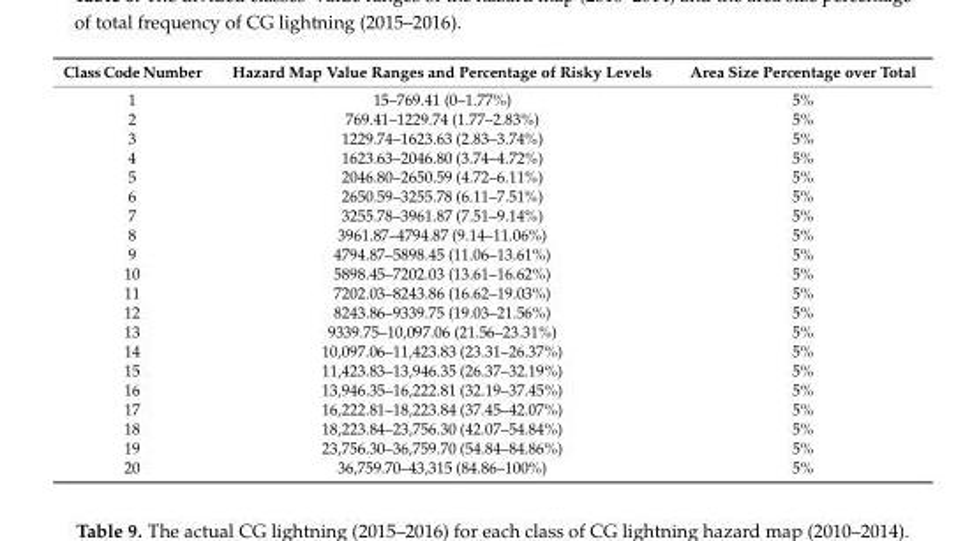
<table><thead><tr><td>Class Code Number</td><td>Hazard Map Value Ranges and Percentage of Risky Levels</td><td>Area Size Percentage over Total</td></tr></thead><tbody><tr><td>1</td><td>15–769.41 (0–1.77%)</td><td>5%</td></tr><tr><td>2</td><td>769.41–1229.74 (1.77–2.83%)</td><td>5%</td></tr><tr><td>3</td><td>1229.74–1623.63 (2.83–3.74%)</td><td>5%</td></tr><tr><td>4</td><td>1623.63–2046.80 (3.74–4.72%)</td><td>5%</td></tr><tr><td>5</td><td>2046.80–2650.59 (4.72–6.11%)</td><td>5%</td></tr><tr><td>6</td><td>2650.59–3255.78 (6.11–7.51%)</td><td>5%</td></tr><tr><td>7</td><td>3255.78–3961.87 (7.51–9.14%)</td><td>5%</td></tr><tr><td>8</td><td>3961.87–4794.87 (9.14–11.06%)</td><td>5%</td></tr><tr><td>9</td><td>4794.87–5898.45 (11.06–13.61%)</td><td>5%</td></tr><tr><td>10</td><td>5898.45–7202.03 (13.61–16.62%)</td><td>5%</td></tr><tr><td>11</td><td>7202.03–8243.86 (16.62–19.03%)</td><td>5%</td></tr><tr><td>12</td><td>8243.86–9339.75 (19.03–21.56%)</td><td>5%</td></tr><tr><td>13</td><td>9339.75–10,097.06 (21.56–23.31%)</td><td>5%</td></tr><tr><td>14</td><td>10,097.06–11,423.83 (23.31–26.37%)</td><td>5%</td></tr><tr><td>15</td><td>11,423.83–13,946.35 (26.37–32.19%)</td><td>5%</td></tr><tr><td>16</td><td>13,946.35–16,222.81 (32.19–37.45%)</td><td>5%</td></tr><tr><td>17</td><td>16,222.81–18,223.84 (37.45–42.07%)</td><td>5%</td></tr><tr><td>18</td><td>18,223.84–23,756.30 (42.07–54.84%)</td><td>5%</td></tr><tr><td>19</td><td>23,756.30–36,759.70 (54.84–84.86%)</td><td>5%</td></tr><tr><td>20</td><td>36,759.70–43,315 (84.86–100%)</td><td>5%</td></tr></tbody></table>